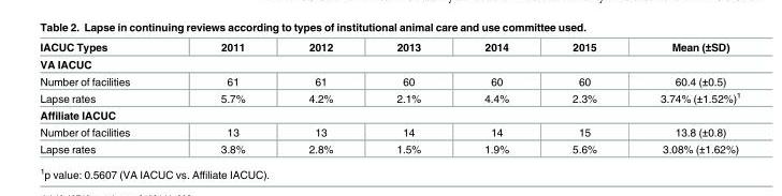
<table><thead><tr><td>IACUC Types</td><td>2011</td><td>2012</td><td>2013</td><td>2014</td><td>2015</td><td>Mean (±SD)</td></tr></thead><tbody><tr><td colspan="7">VA IACUC</td></tr><tr><td>Number of facilities</td><td>61</td><td>61</td><td>60</td><td>60</td><td>60</td><td>60.4 (±0.5)</td></tr><tr><td>Lapse rates</td><td>5.7%</td><td>4.2%</td><td>2.1%</td><td>4.4%</td><td>2.3%</td><td>3.74% (±1.52%)<sup>1</sup></td></tr><tr><td colspan="7">Affiliate IACUC</td></tr><tr><td>Number of facilities</td><td>13</td><td>13</td><td>14</td><td>14</td><td>15</td><td>13.8 (±0.8)</td></tr><tr><td>Lapse rates</td><td>3.8%</td><td>2.8%</td><td>1.5%</td><td>1.9%</td><td>5.6%</td><td>3.08% (±1.62%)</td></tr></tbody></table>